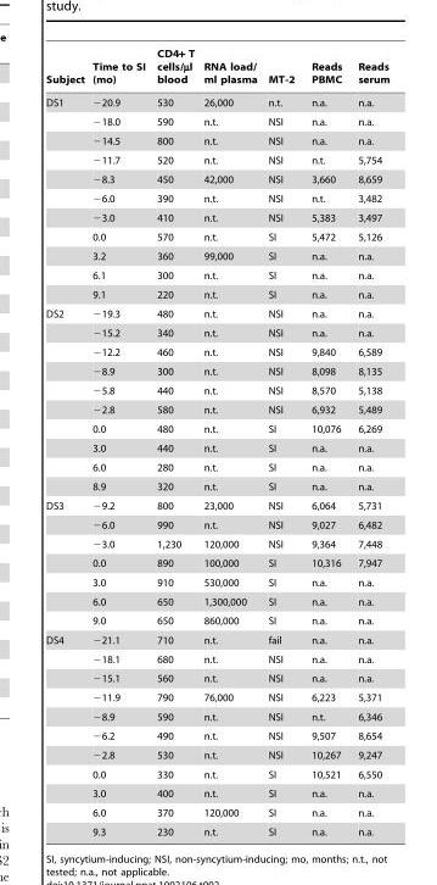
<table><thead><tr><td>Subject</td><td>Time to SI (mo)</td><td>CD4+ T cells/µl blood</td><td>RNA load/ ml plasma</td><td>MT-2</td><td>Reads PBMC</td><td>Reads serum</td></tr></thead><tbody><tr><td rowspan="11">DS1</td><td>−20.9</td><td>530</td><td>26,000</td><td>n.t.</td><td>n.a.</td><td>n.a.</td></tr><tr><td>−18.0</td><td>590</td><td>n.t.</td><td>NSI</td><td>n.a.</td><td>n.a.</td></tr><tr><td>−14.5</td><td>800</td><td>n.t.</td><td>NSI</td><td>n.a.</td><td>n.a.</td></tr><tr><td>−11.7</td><td>520</td><td>n.t.</td><td>NSI</td><td>n.t.</td><td>5,754</td></tr><tr><td>−8.3</td><td>450</td><td>42,000</td><td>NSI</td><td>3,660</td><td>8,659</td></tr><tr><td>−6.0</td><td>390</td><td>n.t.</td><td>NSI</td><td>n.t.</td><td>3,482</td></tr><tr><td>−3.0</td><td>410</td><td>n.t.</td><td>NSI</td><td>5,383</td><td>3,497</td></tr><tr><td>0.0</td><td>570</td><td>n.t.</td><td>SI</td><td>5,472</td><td>5,126</td></tr><tr><td>3.2</td><td>360</td><td>99,000</td><td>SI</td><td>n.a.</td><td>n.a.</td></tr><tr><td>6.1</td><td>300</td><td>n.t.</td><td>SI</td><td>n.a.</td><td>n.a.</td></tr><tr><td>9.1</td><td>220</td><td>n.t.</td><td>SI</td><td>n.a.</td><td>n.a.</td></tr><tr><td rowspan="10">DS2</td><td>−19.3</td><td>480</td><td>n.t.</td><td>NSI</td><td>n.a.</td><td>n.a.</td></tr><tr><td>−15.2</td><td>340</td><td>n.t.</td><td>NSI</td><td>n.a.</td><td>n.a.</td></tr><tr><td>−12.2</td><td>460</td><td>n.t.</td><td>NSI</td><td>9,840</td><td>6,589</td></tr><tr><td>−8.9</td><td>300</td><td>n.t.</td><td>NSI</td><td>8,098</td><td>8,135</td></tr><tr><td>−5.8</td><td>440</td><td>n.t.</td><td>NSI</td><td>8,570</td><td>5,138</td></tr><tr><td>−2.8</td><td>580</td><td>n.t.</td><td>NSI</td><td>6,932</td><td>5,489</td></tr><tr><td>0.0</td><td>480</td><td>n.t.</td><td>SI</td><td>10,076</td><td>6,269</td></tr><tr><td>3.0</td><td>440</td><td>n.t.</td><td>SI</td><td>n.a.</td><td>n.a.</td></tr><tr><td>6.0</td><td>280</td><td>n.t.</td><td>SI</td><td>n.a.</td><td>n.a.</td></tr><tr><td>8.9</td><td>320</td><td>n.t.</td><td>SI</td><td>n.a.</td><td>n.a.</td></tr><tr><td rowspan="7">DS3</td><td>−9.2</td><td>800</td><td>23,000</td><td>NSI</td><td>6,064</td><td>5,731</td></tr><tr><td>−6.0</td><td>990</td><td>n.t.</td><td>NSI</td><td>9,027</td><td>6,482</td></tr><tr><td>−3.0</td><td>1,230</td><td>120,000</td><td>NSI</td><td>9,364</td><td>7,448</td></tr><tr><td>0.0</td><td>890</td><td>100,000</td><td>SI</td><td>10,316</td><td>7,947</td></tr><tr><td>3.0</td><td>910</td><td>530,000</td><td>SI</td><td>n.a.</td><td>n.a.</td></tr><tr><td>6.0</td><td>650</td><td>1,300,000</td><td>SI</td><td>n.a.</td><td>n.a.</td></tr><tr><td>9.0</td><td>650</td><td>860,000</td><td>SI</td><td>n.a.</td><td>n.a.</td></tr><tr><td rowspan="11">DS4</td><td>−21.1</td><td>710</td><td>n.t.</td><td>fail</td><td>n.a.</td><td>n.a.</td></tr><tr><td>−18.1</td><td>680</td><td>n.t.</td><td>NSI</td><td>n.a.</td><td>n.a.</td></tr><tr><td>−15.1</td><td>560</td><td>n.t.</td><td>NSI</td><td>n.a.</td><td>n.a.</td></tr><tr><td>−11.9</td><td>790</td><td>76,000</td><td>NSI</td><td>6,223</td><td>5,371</td></tr><tr><td>−8.9</td><td>590</td><td>n.t.</td><td>NSI</td><td>n.t.</td><td>6,346</td></tr><tr><td>−6.2</td><td>490</td><td>n.t.</td><td>NSI</td><td>9,507</td><td>8,654</td></tr><tr><td>−2.8</td><td>530</td><td>n.t.</td><td>NSI</td><td>10,267</td><td>9,247</td></tr><tr><td>0.0</td><td>330</td><td>n.t.</td><td>SI</td><td>10,521</td><td>6,550</td></tr><tr><td>3.0</td><td>400</td><td>n.t.</td><td>SI</td><td>n.a.</td><td>n.a.</td></tr><tr><td>6.0</td><td>370</td><td>120,000</td><td>SI</td><td>n.a.</td><td>n.a.</td></tr><tr><td>9.3</td><td>230</td><td>n.t.</td><td>SI</td><td>n.a.</td><td>n.a.</td></tr></tbody></table>